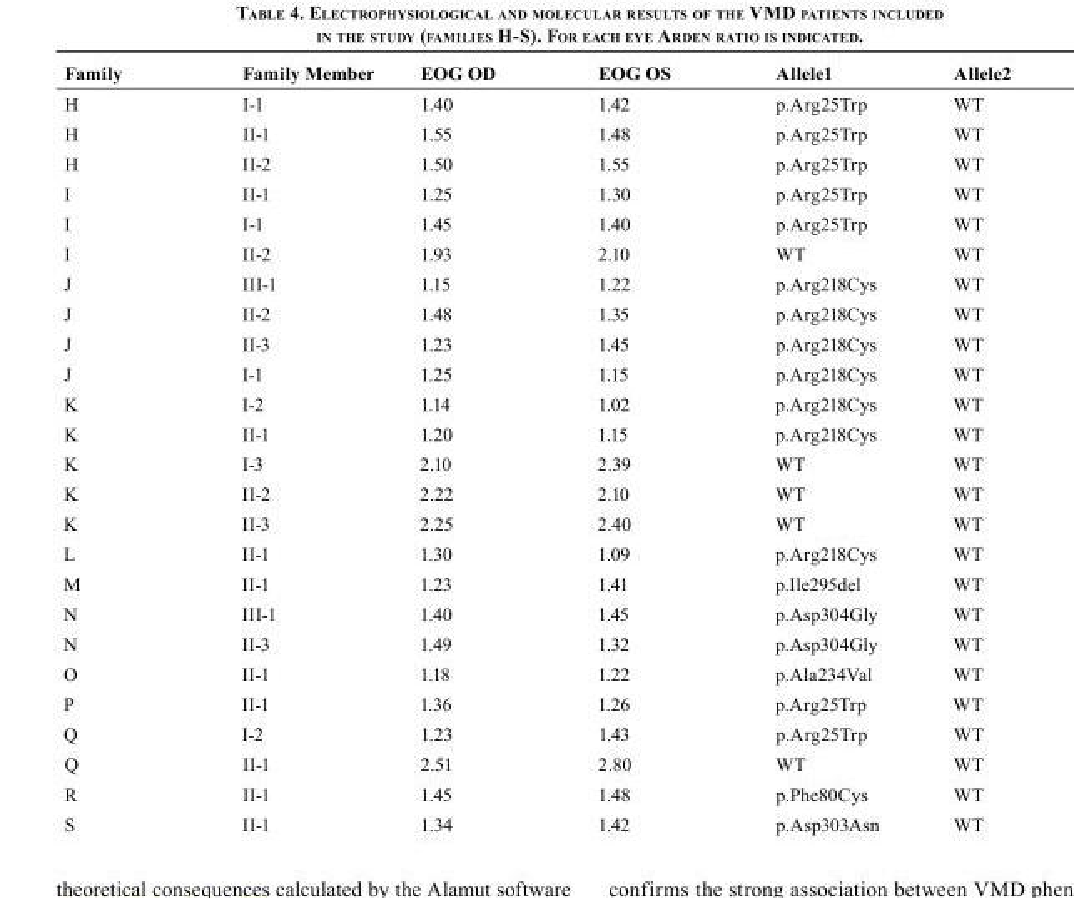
<table><thead><tr><td>Family</td><td>Family Member</td><td>EOG OD</td><td>EOG OS</td><td>Allele1</td><td>Allele2</td></tr></thead><tbody><tr><td>H</td><td>I-1</td><td>1.40</td><td>1.42</td><td>p.Arg25Trp</td><td>WT</td></tr><tr><td>H</td><td>II-1</td><td>1.55</td><td>1.48</td><td>p.Arg25Trp</td><td>WT</td></tr><tr><td>H</td><td>II-2</td><td>1.50</td><td>1.55</td><td>p.Arg25Trp</td><td>WT</td></tr><tr><td>I</td><td>II-1</td><td>1.25</td><td>1.30</td><td>p.Arg25Trp</td><td>WT</td></tr><tr><td>I</td><td>I-1</td><td>1.45</td><td>1.40</td><td>p.Arg25Trp</td><td>WT</td></tr><tr><td>I</td><td>II-2</td><td>1.93</td><td>2.10</td><td>WT</td><td>WT</td></tr><tr><td>J</td><td>III-1</td><td>1.15</td><td>1.22</td><td>p.Arg218Cys</td><td>WT</td></tr><tr><td>J</td><td>II-2</td><td>1.48</td><td>1.35</td><td>p.Arg218Cys</td><td>WT</td></tr><tr><td>J</td><td>II-3</td><td>1.23</td><td>1.45</td><td>p.Arg218Cys</td><td>WT</td></tr><tr><td>J</td><td>I-1</td><td>1.25</td><td>1.15</td><td>p.Arg218Cys</td><td>WT</td></tr><tr><td>K</td><td>I-2</td><td>1.14</td><td>1.02</td><td>p.Arg218Cys</td><td>WT</td></tr><tr><td>K</td><td>II-1</td><td>1.20</td><td>1.15</td><td>p.Arg218Cys</td><td>WT</td></tr><tr><td>K</td><td>I-3</td><td>2.10</td><td>2.39</td><td>WT</td><td>WT</td></tr><tr><td>K</td><td>II-2</td><td>2.22</td><td>2.10</td><td>WT</td><td>WT</td></tr><tr><td>K</td><td>II-3</td><td>2.25</td><td>2.40</td><td>WT</td><td>WT</td></tr><tr><td>L</td><td>II-1</td><td>1.30</td><td>1.09</td><td>p.Arg218Cys</td><td>WT</td></tr><tr><td>M</td><td>II-1</td><td>1.23</td><td>1.41</td><td>p.Ile295del</td><td>WT</td></tr><tr><td>N</td><td>III-1</td><td>1.40</td><td>1.45</td><td>p.Asp304Gly</td><td>WT</td></tr><tr><td>N</td><td>II-3</td><td>1.49</td><td>1.32</td><td>p.Asp304Gly</td><td>WT</td></tr><tr><td>O</td><td>II-1</td><td>1.18</td><td>1.22</td><td>p.Ala234Val</td><td>WT</td></tr><tr><td>P</td><td>II-1</td><td>1.36</td><td>1.26</td><td>p.Arg25Trp</td><td>WT</td></tr><tr><td>Q</td><td>I-2</td><td>1.23</td><td>1.43</td><td>p.Arg25Trp</td><td>WT</td></tr><tr><td>Q</td><td>II-1</td><td>2.51</td><td>2.80</td><td>WT</td><td>WT</td></tr><tr><td>R</td><td>II-1</td><td>1.45</td><td>1.48</td><td>p.Phe80Cys</td><td>WT</td></tr><tr><td>S</td><td>II-1</td><td>1.34</td><td>1.42</td><td>p.Asp303Asn</td><td>WT</td></tr></tbody></table>